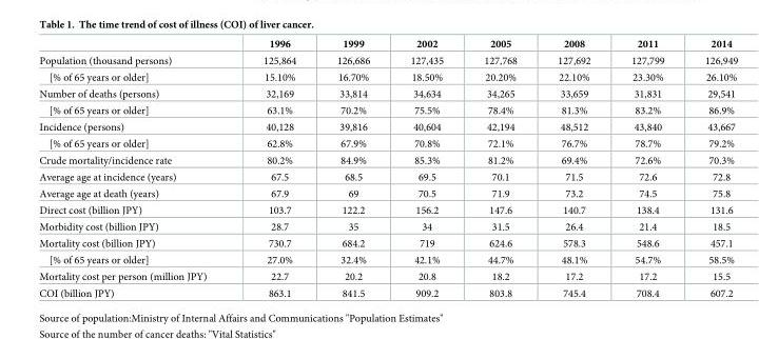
<table><thead><tr><td></td><td>1996</td><td>1999</td><td>2002</td><td>2005</td><td>2008</td><td>2011</td><td>2014</td></tr></thead><tbody><tr><td>Population (thousand persons)</td><td>125,864</td><td>126,686</td><td>127,435</td><td>127,768</td><td>127,692</td><td>127,799</td><td>126,949</td></tr><tr><td>[% of 65 years or older]</td><td>15.10%</td><td>16.70%</td><td>18.50%</td><td>20.20%</td><td>22.10%</td><td>23.30%</td><td>26.10%</td></tr><tr><td>Number of deaths (persons)</td><td>32,169</td><td>33,814</td><td>34,634</td><td>34,265</td><td>33,659</td><td>31,831</td><td>29,541</td></tr><tr><td>[% of 65 years or older]</td><td>63.1%</td><td>70.2%</td><td>75.5%</td><td>78.4%</td><td>81.3%</td><td>83.2%</td><td>86.9%</td></tr><tr><td>Incidence (persons)</td><td>40,128</td><td>39,816</td><td>40,604</td><td>42,194</td><td>48,512</td><td>43,840</td><td>43,667</td></tr><tr><td>[% of 65 years or older]</td><td>62.8%</td><td>67.9%</td><td>70.8%</td><td>72.1%</td><td>76.7%</td><td>78.7%</td><td>79.2%</td></tr><tr><td>Crude mortality/incidence rate</td><td>80.2%</td><td>84.9%</td><td>85.3%</td><td>81.2%</td><td>69.4%</td><td>72.6%</td><td>70.3%</td></tr><tr><td>Average age at incidence (years)</td><td>67.5</td><td>68.5</td><td>69.5</td><td>70.1</td><td>71.5</td><td>72.6</td><td>72.8</td></tr><tr><td>Average age at death (years)</td><td>67.9</td><td>69</td><td>70.5</td><td>71.9</td><td>73.2</td><td>74.5</td><td>75.8</td></tr><tr><td>Direct cost (billion JPY)</td><td>103.7</td><td>122.2</td><td>156.2</td><td>147.6</td><td>140.7</td><td>138.4</td><td>131.6</td></tr><tr><td>Morbidity cost (billion JPY)</td><td>28.7</td><td>35</td><td>34</td><td>31.5</td><td>26.4</td><td>21.4</td><td>18.5</td></tr><tr><td>Mortality cost (billion JPY)</td><td>730.7</td><td>684.2</td><td>719</td><td>624.6</td><td>578.3</td><td>548.6</td><td>457.1</td></tr><tr><td>[% of 65 years or older]</td><td>27.0%</td><td>32.4%</td><td>42.1%</td><td>44.7%</td><td>48.1%</td><td>54.7%</td><td>58.5%</td></tr><tr><td>Mortality cost per person (million JPY)</td><td>22.7</td><td>20.2</td><td>20.8</td><td>18.2</td><td>17.2</td><td>17.2</td><td>15.5</td></tr><tr><td>COI (billion JPY)</td><td>863.1</td><td>841.5</td><td>909.2</td><td>803.8</td><td>745.4</td><td>708.4</td><td>607.2</td></tr></tbody></table>